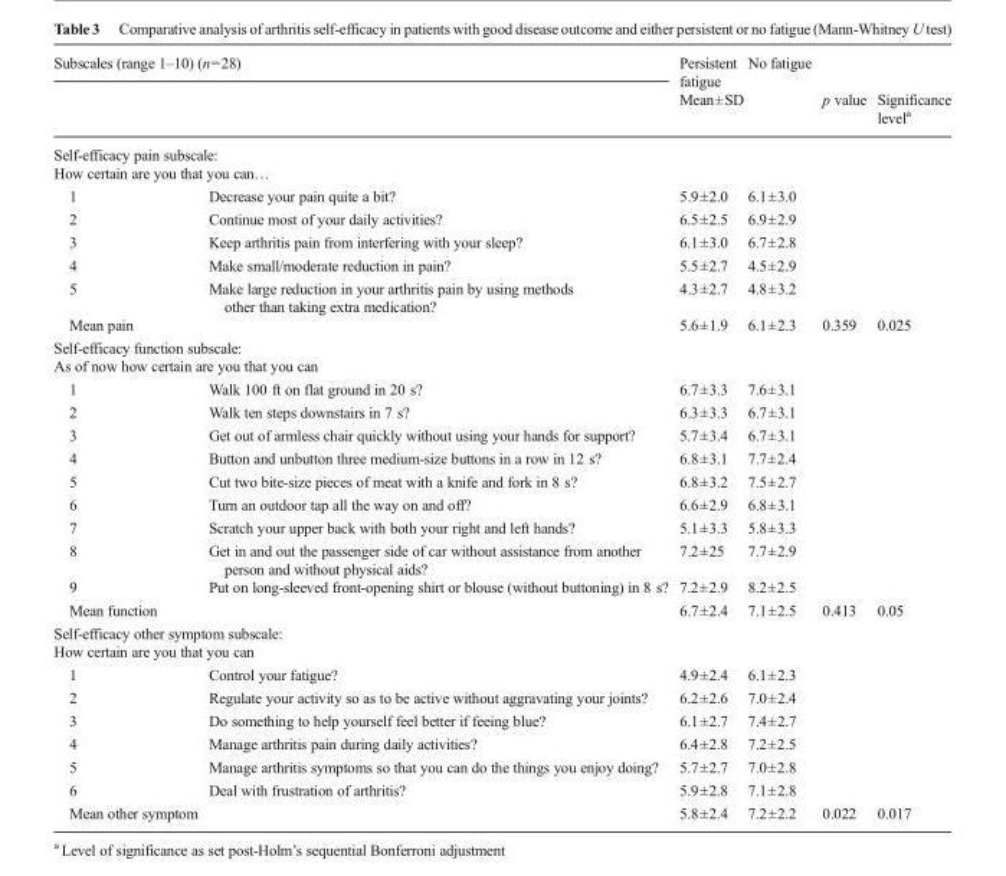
<table><thead><tr><td colspan="2">Subscales (range 1–10) (n=28)</td><td>Persistent fatigue</td><td>No fatigue</td><td rowspan="2">p value</td><td rowspan="2">Significance level<sup>a</sup></td></tr><tr><td></td><td></td><td colspan="2">Mean±SD</td></tr></thead><tbody><tr><td colspan="6">Self-efficacy pain subscale: How certain are you that you can…</td></tr><tr><td>1</td><td>Decrease your pain quite a bit?</td><td>5.9±2.0</td><td>6.1±3.0</td><td></td><td></td></tr><tr><td>2</td><td>Continue most of your daily activities?</td><td>6.5±2.5</td><td>6.9±2.9</td><td></td><td></td></tr><tr><td>3</td><td>Keep arthritis pain from interfering with your sleep?</td><td>6.1±3.0</td><td>6.7±2.8</td><td></td><td></td></tr><tr><td>4</td><td>Make small/moderate reduction in pain?</td><td>5.5±2.7</td><td>4.5±2.9</td><td></td><td></td></tr><tr><td>5</td><td>Make large reduction in your arthritis pain by using methods other than taking extra medication?</td><td>4.3±2.7</td><td>4.8±3.2</td><td></td><td></td></tr><tr><td>Mean pain</td><td></td><td>5.6±1.9</td><td>6.1±2.3</td><td>0.359</td><td>0.025</td></tr><tr><td colspan="6">Self-efficacy function subscale: As of now how certain are you that you can</td></tr><tr><td>1</td><td>Walk 100 ft on flat ground in 20 s?</td><td>6.7±3.3</td><td>7.6±3.1</td><td></td><td></td></tr><tr><td>2</td><td>Walk ten steps downstairs in 7 s?</td><td>6.3±3.3</td><td>6.7±3.1</td><td></td><td></td></tr><tr><td>3</td><td>Get out of armless chair quickly without using your hands for support?</td><td>5.7±3.4</td><td>6.7±3.1</td><td></td><td></td></tr><tr><td>4</td><td>Button and unbutton three medium-size buttons in a row in 12 s?</td><td>6.8±3.1</td><td>7.7±2.4</td><td></td><td></td></tr><tr><td>5</td><td>Cut two bite-size pieces of meat with a knife and fork in 8 s?</td><td>6.8±3.2</td><td>7.5±2.7</td><td></td><td></td></tr><tr><td>6</td><td>Turn an outdoor tap all the way on and off?</td><td>6.6±2.9</td><td>6.8±3.1</td><td></td><td></td></tr><tr><td>7</td><td>Scratch your upper back with both your right and left hands?</td><td>5.1±3.3</td><td>5.8±3.3</td><td></td><td></td></tr><tr><td>8</td><td>Get in and out the passenger side of car without assistance from another person and without physical aids?</td><td>7.2±25</td><td>7.7±2.9</td><td></td><td></td></tr><tr><td>9</td><td>Put on long-sleeved front-opening shirt or blouse (without buttoning) in 8 s?</td><td>7.2±2.9</td><td>8.2±2.5</td><td></td><td></td></tr><tr><td>Mean function</td><td></td><td>6.7±2.4</td><td>7.1±2.5</td><td>0.413</td><td>0.05</td></tr><tr><td colspan="6">Self-efficacy other symptom subscale: How certain are you that you can</td></tr><tr><td>1</td><td>Control your fatigue?</td><td>4.9±2.4</td><td>6.1±2.3</td><td></td><td></td></tr><tr><td>2</td><td>Regulate your activity so as to be active without aggravating your joints?</td><td>6.2±2.6</td><td>7.0±2.4</td><td></td><td></td></tr><tr><td>3</td><td>Do something to help yourself feel better if feeing blue?</td><td>6.1±2.7</td><td>7.4±2.7</td><td></td><td></td></tr><tr><td>4</td><td>Manage arthritis pain during daily activities?</td><td>6.4±2.8</td><td>7.2±2.5</td><td></td><td></td></tr><tr><td>5</td><td>Manage arthritis symptoms so that you can do the things you enjoy doing?</td><td>5.7±2.7</td><td>7.0±2.8</td><td></td><td></td></tr><tr><td>6</td><td>Deal with frustration of arthritis?</td><td>5.9±2.8</td><td>7.1±2.8</td><td></td><td></td></tr><tr><td>Mean other symptom</td><td></td><td>5.8±2.4</td><td>7.2±2.2</td><td>0.022</td><td>0.017</td></tr></tbody></table>